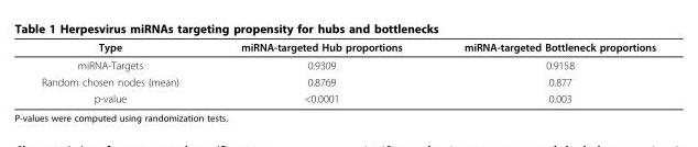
<table><thead><tr><td>Type</td><td>miRNA-targeted Hub proportions</td><td>miRNA-targeted Bottleneck proportions</td></tr></thead><tbody><tr><td>miRNA-Targets</td><td>0.9309</td><td>0.9158</td></tr><tr><td>Random chosen nodes (mean)</td><td>0.8769</td><td>0.877</td></tr><tr><td>p-value</td><td>&lt;0.0001</td><td>0.003</td></tr></tbody></table>